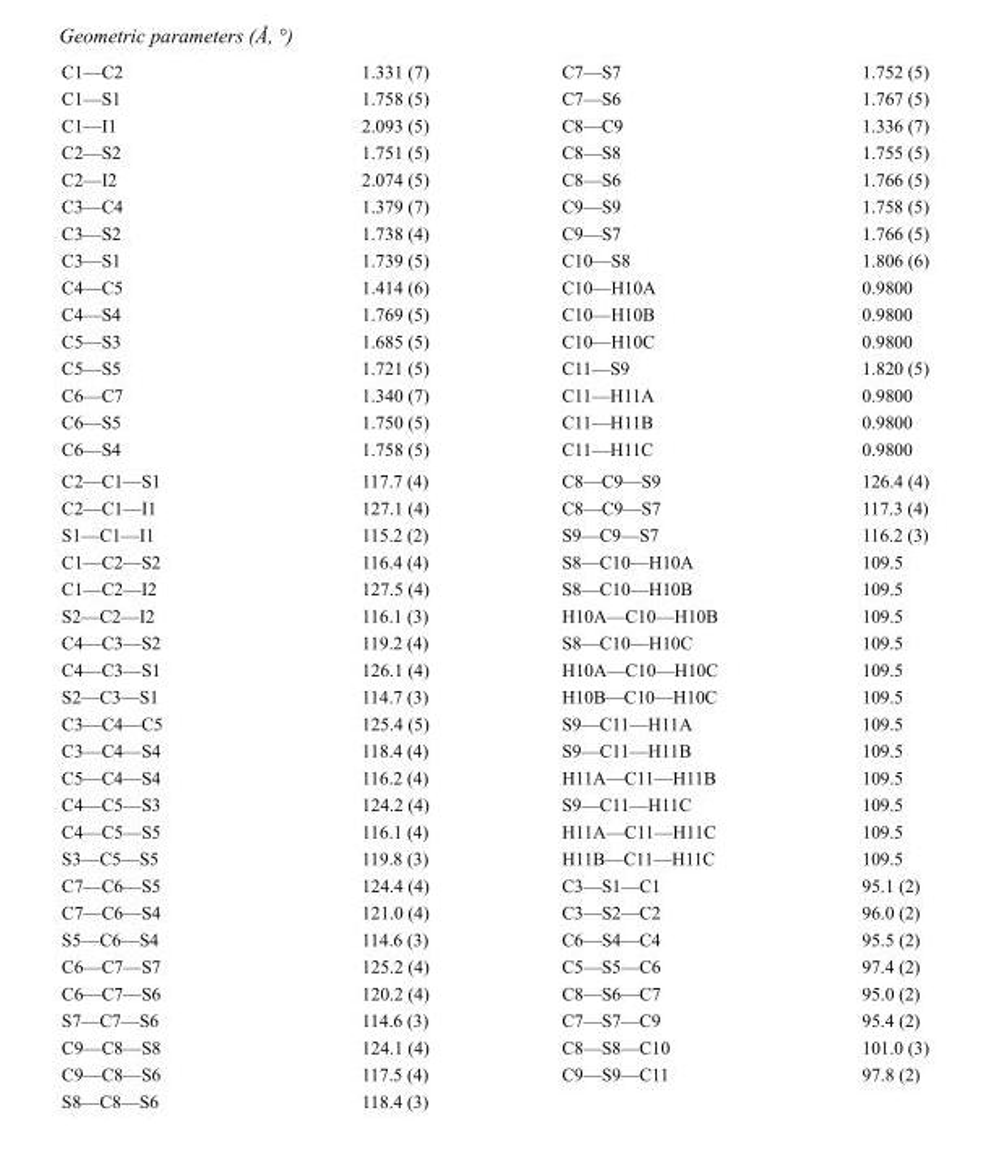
<table><tbody><tr><td>C1—C2</td><td>1.331 (7)</td><td>C7—S7</td><td>1.752 (5)</td></tr><tr><td>C1—S1</td><td>1.758 (5)</td><td>C7—S6</td><td>1.767 (5)</td></tr><tr><td>C1—I1</td><td>2.093 (5)</td><td>C8—C9</td><td>1.336 (7)</td></tr><tr><td>C2—S2</td><td>1.751 (5)</td><td>C8—S8</td><td>1.755 (5)</td></tr><tr><td>C2—I2</td><td>2.074 (5)</td><td>C8—S6</td><td>1.766 (5)</td></tr><tr><td>C3—C4</td><td>1.379 (7)</td><td>C9—S9</td><td>1.758 (5)</td></tr><tr><td>C3—S2</td><td>1.738 (4)</td><td>C9—S7</td><td>1.766 (5)</td></tr><tr><td>C3—S1</td><td>1.739 (5)</td><td>C10—S8</td><td>1.806 (6)</td></tr><tr><td>C4—C5</td><td>1.414 (6)</td><td>C10—H10A</td><td>0.9800</td></tr><tr><td>C4—S4</td><td>1.769 (5)</td><td>C10—H10B</td><td>0.9800</td></tr><tr><td>C5—S3</td><td>1.685 (5)</td><td>C10—H10C</td><td>0.9800</td></tr><tr><td>C5—S5</td><td>1.721 (5)</td><td>C11—S9</td><td>1.820 (5)</td></tr><tr><td>C6—C7</td><td>1.340 (7)</td><td>C11—H11A</td><td>0.9800</td></tr><tr><td>C6—S5</td><td>1.750 (5)</td><td>C11—H11B</td><td>0.9800</td></tr><tr><td>C6—S4</td><td>1.758 (5)</td><td>C11—H11C</td><td>0.9800</td></tr><tr><td>C2—C1—S1</td><td>117.7 (4)</td><td>C8—C9—S9</td><td>126.4 (4)</td></tr><tr><td>C2—C1—I1</td><td>127.1 (4)</td><td>C8—C9—S7</td><td>117.3 (4)</td></tr><tr><td>S1—C1—I1</td><td>115.2 (2)</td><td>S9—C9—S7</td><td>116.2 (3)</td></tr><tr><td>C1—C2—S2</td><td>116.4 (4)</td><td>S8—C10—H10A</td><td>109.5</td></tr><tr><td>C1—C2—I2</td><td>127.5 (4)</td><td>S8—C10—H10B</td><td>109.5</td></tr><tr><td>S2—C2—I2</td><td>116.1 (3)</td><td>H10A—C10—H10B</td><td>109.5</td></tr><tr><td>C4—C3—S2</td><td>119.2 (4)</td><td>S8—C10—H10C</td><td>109.5</td></tr><tr><td>C4—C3—S1</td><td>126.1 (4)</td><td>H10A—C10—H10C</td><td>109.5</td></tr><tr><td>S2—C3—S1</td><td>114.7 (3)</td><td>H10B—C10—H10C</td><td>109.5</td></tr><tr><td>C3—C4—C5</td><td>125.4 (5)</td><td>S9—C11—H11A</td><td>109.5</td></tr><tr><td>C3—C4—S4</td><td>118.4 (4)</td><td>S9—C11—H11B</td><td>109.5</td></tr><tr><td>C5—C4—S4</td><td>116.2 (4)</td><td>H11A—C11—H11B</td><td>109.5</td></tr><tr><td>C4—C5—S3</td><td>124.2 (4)</td><td>S9—C11—H11C</td><td>109.5</td></tr><tr><td>C4—C5—S5</td><td>116.1 (4)</td><td>H11A—C11—H11C</td><td>109.5</td></tr><tr><td>S3—C5—S5</td><td>119.8 (3)</td><td>H11B—C11—H11C</td><td>109.5</td></tr><tr><td>C7—C6—S5</td><td>124.4 (4)</td><td>C3—S1—C1</td><td>95.1 (2)</td></tr><tr><td>C7—C6—S4</td><td>121.0 (4)</td><td>C3—S2—C2</td><td>96.0 (2)</td></tr><tr><td>S5—C6—S4</td><td>114.6 (3)</td><td>C6—S4—C4</td><td>95.5 (2)</td></tr><tr><td>C6—C7—S7</td><td>125.2 (4)</td><td>C5—S5—C6</td><td>97.4 (2)</td></tr><tr><td>C6—C7—S6</td><td>120.2 (4)</td><td>C8—S6—C7</td><td>95.0 (2)</td></tr><tr><td>S7—C7—S6</td><td>114.6 (3)</td><td>C7—S7—C9</td><td>95.4 (2)</td></tr><tr><td>C9—C8—S8</td><td>124.1 (4)</td><td>C8—S8—C10</td><td>101.0 (3)</td></tr><tr><td>C9—C8—S6</td><td>117.5 (4)</td><td>C9—S9—C11</td><td>97.8 (2)</td></tr><tr><td>S8—C8—S6</td><td>118.4 (3)</td><td></td><td></td></tr></tbody></table>